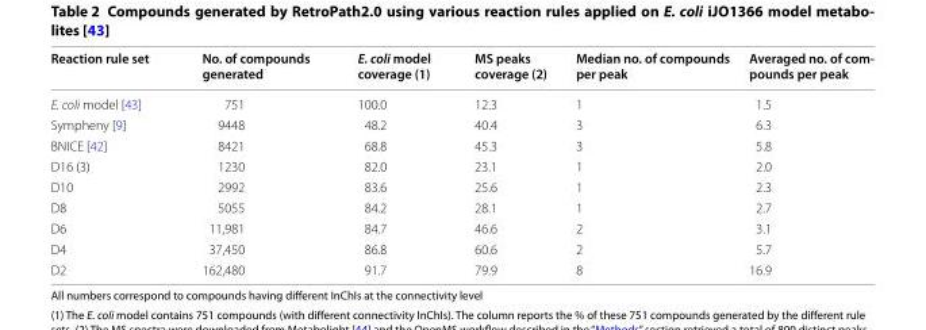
<table><thead><tr><td>Reaction rule set</td><td>No. of compounds generated</td><td>E. coli model coverage (1)</td><td>MS peaks coverage (2)</td><td>Median no. of compounds per peak</td><td>Averaged no. of com- pounds per peak</td></tr></thead><tbody><tr><td>E. coli model [43]</td><td>751</td><td>100.0</td><td>12.3</td><td>1</td><td>1.5</td></tr><tr><td>Sympheny [9]</td><td>9448</td><td>48.2</td><td>40.4</td><td>3</td><td>6.3</td></tr><tr><td>BNICE [42]</td><td>8421</td><td>68.8</td><td>45.3</td><td>3</td><td>5.8</td></tr><tr><td>D16 (3)</td><td>1230</td><td>82.0</td><td>23.1</td><td>1</td><td>2.0</td></tr><tr><td>D10</td><td>2992</td><td>83.6</td><td>25.6</td><td>1</td><td>2.3</td></tr><tr><td>D8</td><td>5055</td><td>84.2</td><td>28.1</td><td>1</td><td>2.7</td></tr><tr><td>D6</td><td>11,981</td><td>84.7</td><td>46.6</td><td>2</td><td>3.1</td></tr><tr><td>D4</td><td>37,450</td><td>86.8</td><td>60.6</td><td>2</td><td>5.7</td></tr><tr><td>D2</td><td>162,480</td><td>91.7</td><td>79.9</td><td>8</td><td>16.9</td></tr></tbody></table>